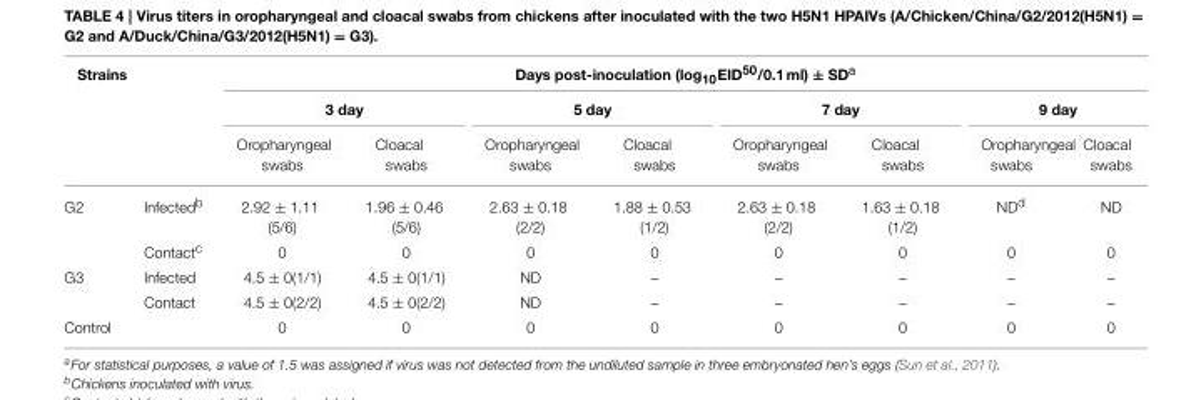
<table><thead><tr><td colspan="2">Strains</td><td colspan="8">Days post-inoculation (log<sub>10</sub>EID<sup>50</sup>/0.1 ml) ± SD<sup>a</sup></td></tr><tr><td rowspan="2"></td><td rowspan="2"></td><td colspan="2">3 day</td><td colspan="2">5 day</td><td colspan="2">7 day</td><td colspan="2">9 day</td></tr><tr><td>Oropharyngeal swabs</td><td>Cloacal swabs</td><td>Oropharyngeal swabs</td><td>Cloacal swabs</td><td>Oropharyngeal swabs</td><td>Cloacal swabs</td><td>Oropharyngeal swabs</td><td>Cloacal swabs</td></tr></thead><tbody><tr><td rowspan="2">G2</td><td>Infected<sup>b</sup></td><td>2.92 ± 1.11 (5/6)</td><td>1.96 ± 0.46 (5/6)</td><td>2.63 ± 0.18 (2/2)</td><td>1.88 ± 0.53 (1/2)</td><td>2.63 ± 0.18 (2/2)</td><td>1.63 ± 0.18 (1/2)</td><td>ND<sup>d</sup></td><td>ND</td></tr><tr><td>Contact<sup>c</sup></td><td>0</td><td>0</td><td>0</td><td>0</td><td>0</td><td>0</td><td>0</td><td>0</td></tr><tr><td rowspan="2">G3</td><td>Infected</td><td>4.5 ± 0(1/1)</td><td>4.5 ± 0(1/1)</td><td>ND</td><td>–</td><td>–</td><td>–</td><td>–</td><td>–</td></tr><tr><td>Contact</td><td>4.5 ± 0(2/2)</td><td>4.5 ± 0(2/2)</td><td>ND</td><td>–</td><td>–</td><td>–</td><td>–</td><td>–</td></tr><tr><td>Control</td><td></td><td>0</td><td>0</td><td>0</td><td>0</td><td>0</td><td>0</td><td>0</td><td>0</td></tr></tbody></table>